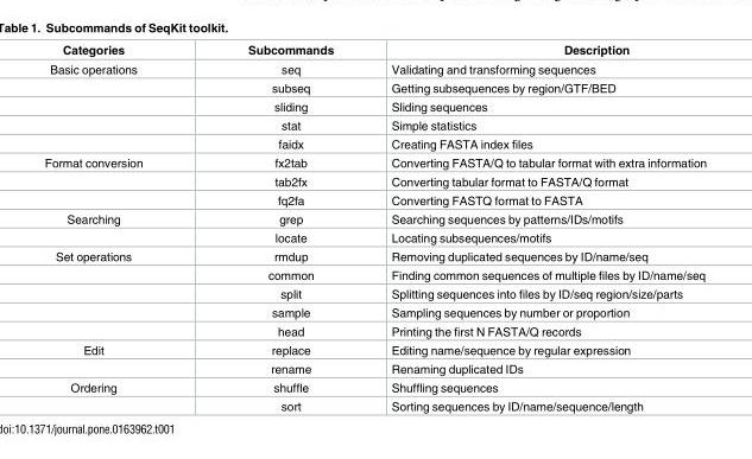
<table><thead><tr><td>Categories</td><td>Subcommands</td><td>Description</td></tr></thead><tbody><tr><td rowspan="5">Basic operations</td><td>seq</td><td>Validating and transforming sequences</td></tr><tr><td>subseq</td><td>Getting subsequences by region/GTF/BED</td></tr><tr><td>sliding</td><td>Sliding sequences</td></tr><tr><td>stat</td><td>Simple statistics</td></tr><tr><td>faidx</td><td>Creating FASTA index files</td></tr><tr><td rowspan="3">Format conversion</td><td>fx2tab</td><td>Converting FASTA/Q to tabular format with extra information</td></tr><tr><td>tab2fx</td><td>Converting tabular format to FASTA/Q format</td></tr><tr><td>fq2fa</td><td>Converting FASTQ format to FASTA</td></tr><tr><td rowspan="2">Searching</td><td>grep</td><td>Searching sequences by patterns/IDs/motifs</td></tr><tr><td>locate</td><td>Locating subsequences/motifs</td></tr><tr><td rowspan="5">Set operations</td><td>rmdup</td><td>Removing duplicated sequences by ID/name/seq</td></tr><tr><td>common</td><td>Finding common sequences of multiple files by ID/name/seq</td></tr><tr><td>split</td><td>Splitting sequences into files by ID/seq region/size/parts</td></tr><tr><td>sample</td><td>Sampling sequences by number or proportion</td></tr><tr><td>head</td><td>Printing the first N FASTA/Q records</td></tr><tr><td rowspan="2">Edit</td><td>replace</td><td>Editing name/sequence by regular expression</td></tr><tr><td>rename</td><td>Renaming duplicated IDs</td></tr><tr><td rowspan="2">Ordering</td><td>shuffle</td><td>Shuffling sequences</td></tr><tr><td>sort</td><td>Sorting sequences by ID/name/sequence/length</td></tr></tbody></table>